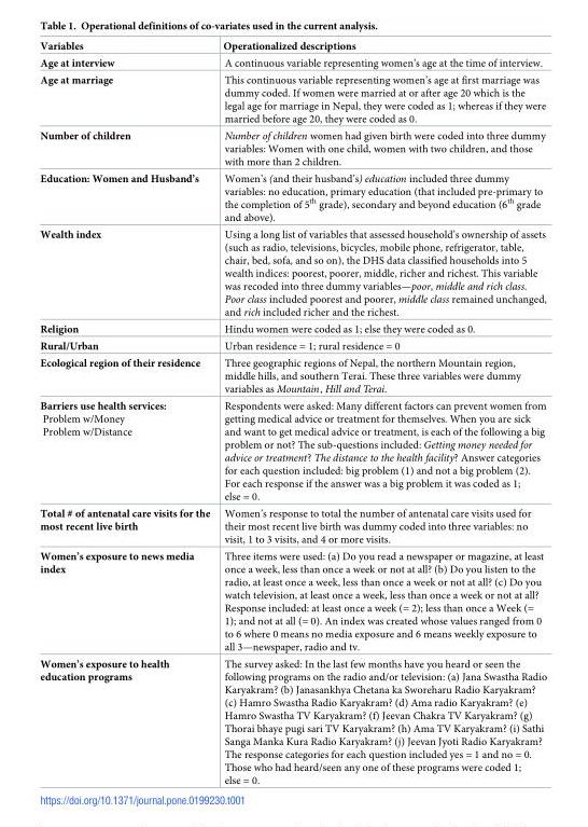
<table><thead><tr><td>Variables</td><td>Operationalized descriptions</td></tr></thead><tbody><tr><td>Age at interview</td><td>A continuous variable representing women’s age at the time of interview.</td></tr><tr><td>Age at marriage</td><td>This continuous variable representing women’s age at first marriage was dummy coded. If women were married at or after age 20 which is the legal age for marriage in Nepal, they were coded as 1; whereas if they were married before age 20, they were coded as 0.</td></tr><tr><td>Number of children</td><td>Number of children women had given birth were coded into three dummy variables: Women with one child, women with two children, and those with more than 2 children.</td></tr><tr><td>Education: Women and Husband’s</td><td>Women’s (and their husband’s) education included three dummy variables: no education, primary education (that included pre-primary to the completion of 5<sup>th</sup> grade), secondary and beyond education (6<sup>th</sup> grade and above).</td></tr><tr><td>Wealth index</td><td>Using a long list of variables that assessed household’s ownership of assets (such as radio, televisions, bicycles, mobile phone, refrigerator, table, chair, bed, sofa, and so on), the DHS data classified households into 5 wealth indices: poorest, poorer, middle, richer and richest. This variable was recoded into three dummy variables—poor, middle and rich class. Poor class included poorest and poorer, middle class remained unchanged, and rich included richer and the richest.</td></tr><tr><td>Religion</td><td>Hindu women were coded as 1; else they were coded as 0.</td></tr><tr><td>Rural/Urban</td><td>Urban residence = 1; rural residence = 0</td></tr><tr><td>Ecological region of their residence</td><td>Three geographic regions of Nepal, the northern Mountain region, middle hills, and southern Terai. These three variables were dummy variables as Mountain, Hill and Terai.</td></tr><tr><td>Barriers use health services: Problem w/Money Problem w/Distance</td><td>Respondents were asked: Many different factors can prevent women from getting medical advice or treatment for themselves. When you are sick and want to get medical advice or treatment, is each of the following a big problem or not? The sub-questions included: Getting money needed for advice or treatment? The distance to the health facility? Answer categories for each question included: big problem (1) and not a big problem (2). For each response if the answer was a big problem it was coded as 1; else = 0.</td></tr><tr><td>Total # of antenatal care visits for the most recent live birth</td><td>Women’s response to total the number of antenatal care visits used for their most recent live birth was dummy coded into three variables: no visit, 1 to 3 visits, and 4 or more visits.</td></tr><tr><td>Women’s exposure to news media index</td><td>Three items were used: (a) Do you read a newspaper or magazine, at least once a week, less than once a week or not at all? (b) Do you listen to the radio, at least once a week, less than once a week or not at all? (c) Do you watch television, at least once a week, less than once a week or not at all? Response included: at least once a week (= 2); less than once a Week (= 1); and not at all (= 0). An index was created whose values ranged from 0 to 6 where 0 means no media exposure and 6 means weekly exposure to all 3—newspaper, radio and tv.</td></tr><tr><td>Women’s exposure to health education programs</td><td>The survey asked: In the last few months have you heard or seen the following programs on the radio and/or television: (a) Jana Swastha Radio Karyakram? (b) Janasankhya Chetana ka Sworeharu Radio Karyakram? (c) Hamro Swastha Radio Karyakram? (d) Ama radio Karyakram? (e) Hamro Swastha TV Karyakram? (f) Jeevan Chakra TV Karyakram? (g) Thorai bhaye pugi sari TV Karyakram? (h) Ama TV Karyakram? (i) Sathi Sanga Manka Kura Radio Karyakram? (j) Jeevan Jyoti Radio Karyakram? The response categories for each question included yes = 1 and no = 0. Those who had heard/seen any one of these programs were coded 1; else = 0.</td></tr></tbody></table>